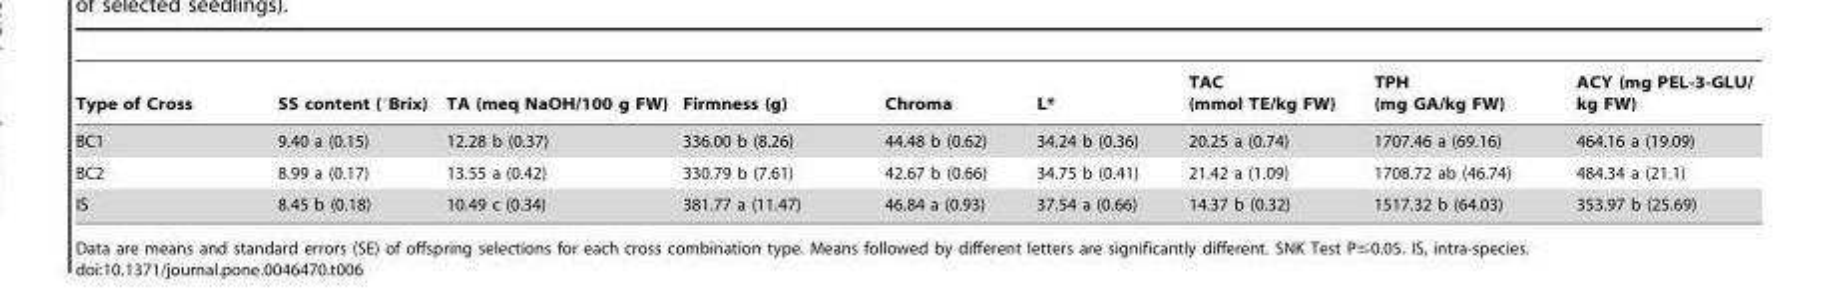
<table><thead><tr><td>Type of Cross</td><td>SS content (°Brix)</td><td>TA (meq NaOH/100 g FW)</td><td>Firmness (g)</td><td>Chroma</td><td>L*</td><td>TAC (mmol TE/kg FW)</td><td>TPH (mg GA/kg FW)</td><td>ACY (mg PEL-3-GLU/ kg FW)</td></tr></thead><tbody><tr><td>BC1</td><td>9.40 a (0.15)</td><td>12.28 b (0.37)</td><td>336.00 b (8.26)</td><td>44.48 b (0.62)</td><td>34.24 b (0.36)</td><td>20.25 a (0.74)</td><td>1707.46 a (69.16)</td><td>464.16 a (19.09)</td></tr><tr><td>BC2</td><td>8.99 a (0.17)</td><td>13.55 a (0.42)</td><td>330.79 b (7.61)</td><td>42.67 b (0.66)</td><td>34.75 b (0.41)</td><td>21.42 a (1.09)</td><td>1708.72 ab (46.74)</td><td>484.34 a (21.1)</td></tr><tr><td>IS</td><td>8.45 b (0.18)</td><td>10.49 c (0.34)</td><td>381.77 a (11.47)</td><td>46.84 a (0.93)</td><td>37.54 a (0.66)</td><td>14.37 b (0.32)</td><td>1517.32 b (64.03)</td><td>353.97 b (25.69)</td></tr></tbody></table>